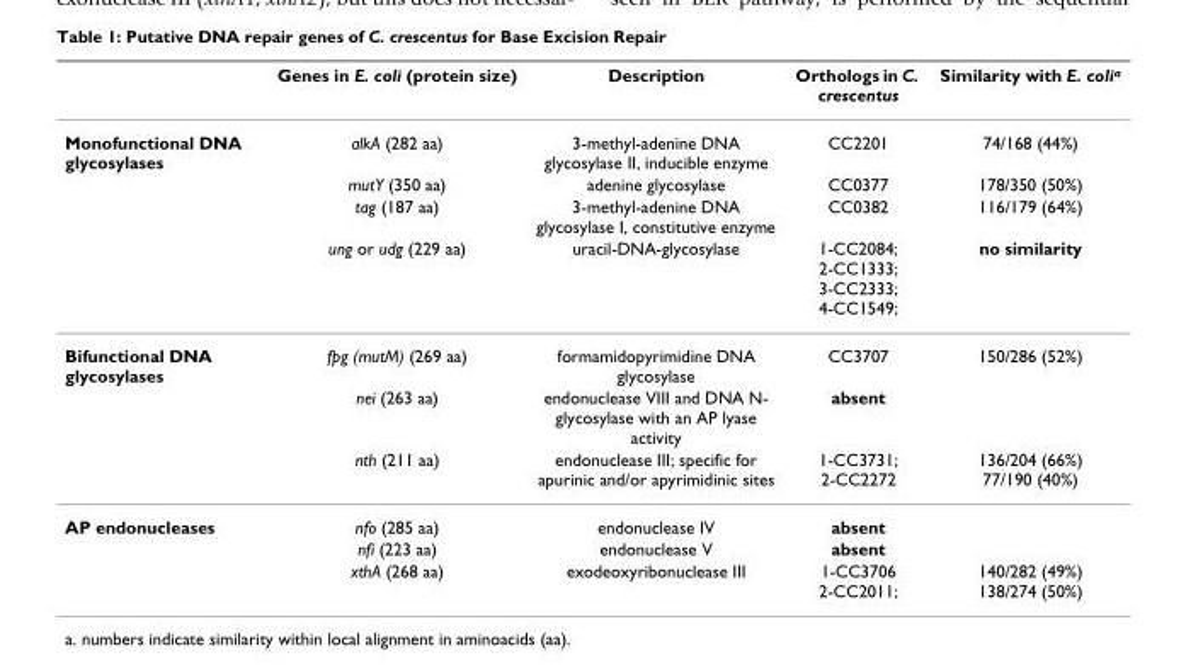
<table><thead><tr><td></td><td>Genes in E. coli (protein size)</td><td>Description</td><td>Orthologs in C. crescentus</td><td>Similarity with E. colia</td></tr></thead><tbody><tr><td rowspan="4">Monofunctional DNA glycosylases</td><td>alkA (282 aa)</td><td>3-methyl-adenine DNA glycosylase II, inducible enzyme</td><td>CC2201</td><td>74/168 (44%)</td></tr><tr><td>mutY (350 aa)</td><td>adenine glycosylase</td><td>CC0377</td><td>178/350 (50%)</td></tr><tr><td>tag (187 aa)</td><td>3-methyl-adenine DNA glycosylase I, constitutive enzyme</td><td>CC0382</td><td>116/179 (64%)</td></tr><tr><td>ung or udg (229 aa)</td><td>uracil-DNA-glycosylase</td><td>1-CC2084; 2-CC1333; 3-CC2333; 4-CC1549;</td><td>no similarity</td></tr><tr><td rowspan="3">Bifunctional DNA glycosylases</td><td>fpg (mutM) (269 aa)</td><td>formamidopyrimidine DNA glycosylase</td><td>CC3707</td><td>150/286 (52%)</td></tr><tr><td>nei (263 aa)</td><td>endonuclease VIII and DNA N- glycosylase with an AP lyase activity</td><td>absent</td><td></td></tr><tr><td>nth (211 aa)</td><td>endonuclease III; specific for apurinic and/or apyrimidinic sites</td><td>1-CC3731; 2-CC2272</td><td>136/204 (66%) 77/190 (40%)</td></tr><tr><td rowspan="3">AP endonucleases</td><td>nfo (285 aa)</td><td>endonuclease IV</td><td>absent</td><td></td></tr><tr><td>nfi (223 aa)</td><td>endonuclease V</td><td>absent</td><td></td></tr><tr><td>xthA (268 aa)</td><td>exodeoxyribonuclease III</td><td>1-CC3706 2-CC2011;</td><td>140/282 (49%) 138/274 (50%)</td></tr></tbody></table>